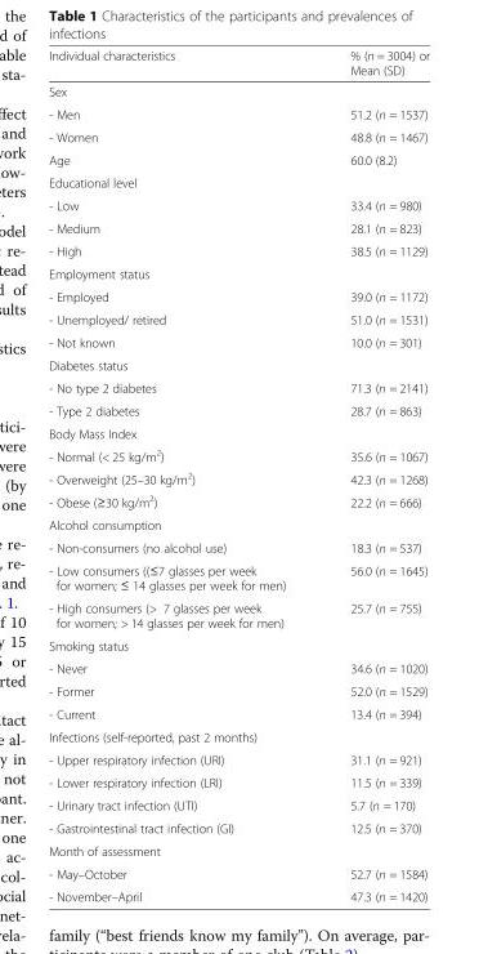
<table><thead><tr><td>Individual characteristics</td><td>% (n = 3004) or Mean (SD)</td></tr></thead><tbody><tr><td colspan="2">Sex</td></tr><tr><td>- Men</td><td>51.2 (n = 1537)</td></tr><tr><td>- Women</td><td>48.8 (n = 1467)</td></tr><tr><td>Age</td><td>60.0 (8.2)</td></tr><tr><td colspan="2">Educational level</td></tr><tr><td>- Low</td><td>33.4 (n = 980)</td></tr><tr><td>- Medium</td><td>28.1 (n = 823)</td></tr><tr><td>- High</td><td>38.5 (n = 1129)</td></tr><tr><td colspan="2">Employment status</td></tr><tr><td>- Employed</td><td>39.0 (n = 1172)</td></tr><tr><td>- Unemployed/ retired</td><td>51.0 (n = 1531)</td></tr><tr><td>- Not known</td><td>10.0 (n = 301)</td></tr><tr><td colspan="2">Diabetes status</td></tr><tr><td>- No type 2 diabetes</td><td>71.3 (n = 2141)</td></tr><tr><td>- Type 2 diabetes</td><td>28.7 (n = 863)</td></tr><tr><td colspan="2">Body Mass Index</td></tr><tr><td>- Normal (&lt; 25 kg/m<sup>2</sup>)</td><td>35.6 (n = 1067)</td></tr><tr><td>- Overweight (25–30 kg/m<sup>2</sup>)</td><td>42.3 (n = 1268)</td></tr><tr><td>- Obese (≥30 kg/m<sup>2</sup>)</td><td>22.2 (n = 666)</td></tr><tr><td colspan="2">Alcohol consumption</td></tr><tr><td>- Non-consumers (no alcohol use)</td><td>18.3 (n = 537)</td></tr><tr><td>- Low consumers ((≤7 glasses per week for women; ≤ 14 glasses per week for men)</td><td>56.0 (n = 1645)</td></tr><tr><td>- High consumers (&gt; 7 glasses per week for women; &gt; 14 glasses per week for men)</td><td>25.7 (n = 755)</td></tr><tr><td colspan="2">Smoking status</td></tr><tr><td>- Never</td><td>34.6 (n = 1020)</td></tr><tr><td>- Former</td><td>52.0 (n = 1529)</td></tr><tr><td>- Current</td><td>13.4 (n = 394)</td></tr><tr><td colspan="2">Infections (self-reported, past 2 months)</td></tr><tr><td>- Upper respiratory infection (URI)</td><td>31.1 (n = 921)</td></tr><tr><td>- Lower respiratory infection (LRI)</td><td>11.5 (n = 339)</td></tr><tr><td>- Urinary tract infection (UTI)</td><td>5.7 (n = 170)</td></tr><tr><td>- Gastrointestinal tract infection (GI)</td><td>12.5 (n = 370)</td></tr><tr><td colspan="2">Month of assessment</td></tr><tr><td>- May–October</td><td>52.7 (n = 1584)</td></tr><tr><td>- November–April</td><td>47.3 (n = 1420)</td></tr></tbody></table>